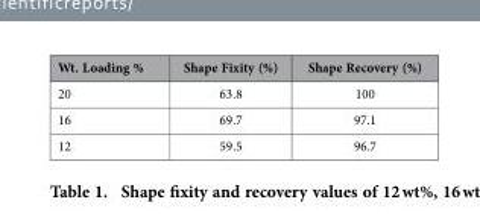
<table><thead><tr><td>Wt. Loading %</td><td>Shape Fixity (%)</td><td>Shape Recovery (%)</td></tr></thead><tbody><tr><td>20</td><td>63.8</td><td>100</td></tr><tr><td>16</td><td>69.7</td><td>97.1</td></tr><tr><td>12</td><td>59.5</td><td>96.7</td></tr></tbody></table>